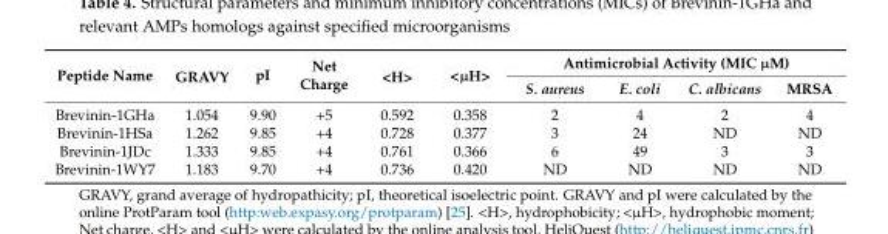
<table><thead><tr><td rowspan="2">Peptide Name</td><td rowspan="2">GRAVY</td><td rowspan="2">pI</td><td rowspan="2">Net Charge</td><td rowspan="2">&lt;H&gt;</td><td rowspan="2">&lt;µH&gt;</td><td colspan="4">Antimicrobial Activity (MIC µM)</td></tr><tr><td>S. aureus</td><td>E. coli</td><td>C. albicans</td><td>MRSA</td></tr></thead><tbody><tr><td>Brevinin-1GHa</td><td>1.054</td><td>9.90</td><td>+5</td><td>0.592</td><td>0.358</td><td>2</td><td>4</td><td>2</td><td>4</td></tr><tr><td>Brevinin-1HSa</td><td>1.262</td><td>9.85</td><td>+4</td><td>0.728</td><td>0.377</td><td>3</td><td>24</td><td>ND</td><td>ND</td></tr><tr><td>Brevinin-1JDc</td><td>1.333</td><td>9.85</td><td>+4</td><td>0.761</td><td>0.366</td><td>6</td><td>49</td><td>3</td><td>3</td></tr><tr><td>Brevinin-1WY7</td><td>1.183</td><td>9.70</td><td>+4</td><td>0.736</td><td>0.420</td><td>ND</td><td>ND</td><td>ND</td><td>ND</td></tr></tbody></table>